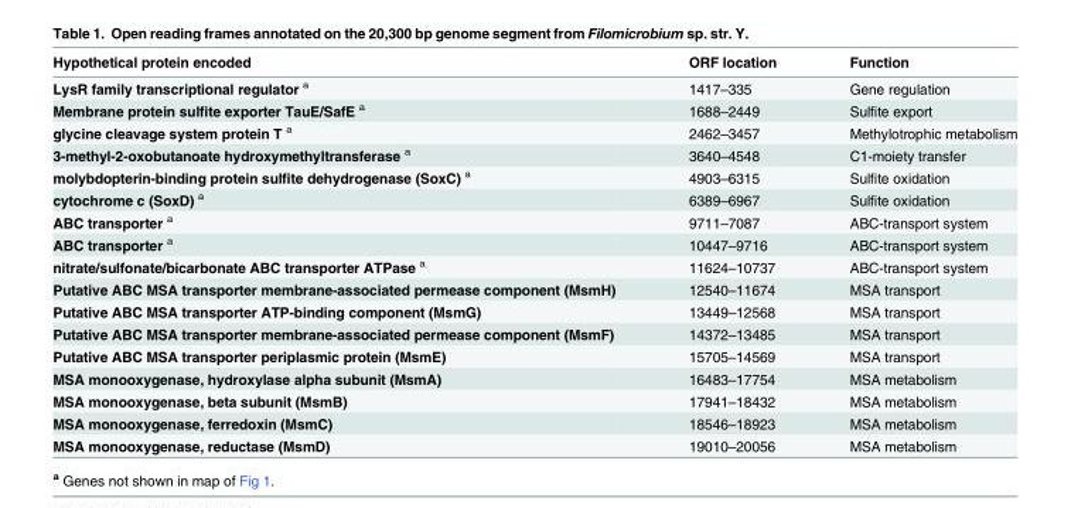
<table><thead><tr><td>Hypothetical protein encoded</td><td>ORF location</td><td>Function</td></tr></thead><tbody><tr><td>LysR family transcriptional regulator <sup>a</sup></td><td>1417–335</td><td>Gene regulation</td></tr><tr><td>Membrane protein sulfite exporter TauE/SafE <sup>a</sup></td><td>1688–2449</td><td>Sulfite export</td></tr><tr><td>glycine cleavage system protein T <sup>a</sup></td><td>2462–3457</td><td>Methylotrophic metabolism</td></tr><tr><td>3-methyl-2-oxobutanoate hydroxymethyltransferase <sup>a</sup></td><td>3640–4548</td><td>C1-moiety transfer</td></tr><tr><td>molybdopterin-binding protein sulfite dehydrogenase (SoxC) <sup>a</sup></td><td>4903–6315</td><td>Sulfite oxidation</td></tr><tr><td>cytochrome c (SoxD) <sup>a</sup></td><td>6389–6967</td><td>Sulfite oxidation</td></tr><tr><td>ABC transporter <sup>a</sup></td><td>9711–7087</td><td>ABC-transport system</td></tr><tr><td>ABC transporter <sup>a</sup></td><td>10447–9716</td><td>ABC-transport system</td></tr><tr><td>nitrate/sulfonate/bicarbonate ABC transporter ATPase <sup>a</sup></td><td>11624–10737</td><td>ABC-transport system</td></tr><tr><td>Putative ABC MSA transporter membrane-associated permease component (MsmH)</td><td>12540–11674</td><td>MSA transport</td></tr><tr><td>Putative ABC MSA transporter ATP-binding component (MsmG)</td><td>13449–12568</td><td>MSA transport</td></tr><tr><td>Putative ABC MSA transporter membrane-associated permease component (MsmF)</td><td>14372–13485</td><td>MSA transport</td></tr><tr><td>Putative ABC MSA transporter periplasmic protein (MsmE)</td><td>15705–14569</td><td>MSA transport</td></tr><tr><td>MSA monooxygenase, hydroxylase alpha subunit (MsmA)</td><td>16483–17754</td><td>MSA metabolism</td></tr><tr><td>MSA monooxygenase, beta subunit (MsmB)</td><td>17941–18432</td><td>MSA metabolism</td></tr><tr><td>MSA monooxygenase, ferredoxin (MsmC)</td><td>18546–18923</td><td>MSA metabolism</td></tr><tr><td>MSA monooxygenase, reductase (MsmD)</td><td>19010–20056</td><td>MSA metabolism</td></tr></tbody></table>